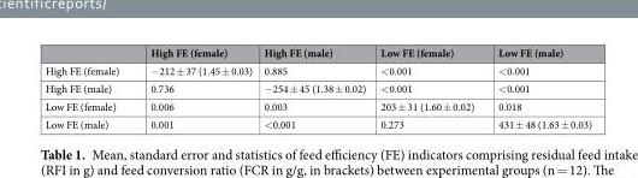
<table><thead><tr><td></td><td>High FE (female)</td><td>High FE (male)</td><td>Low FE (female)</td><td>Low FE (male)</td></tr></thead><tbody><tr><td>High FE (female)</td><td>−212 ± 37 (1.45 ± 0.03)</td><td>0.885</td><td>&lt;0.001</td><td>&lt;0.001</td></tr><tr><td>High FE (male)</td><td>0.736</td><td>−254 ± 45 (1.38 ± 0.02)</td><td>&lt;0.001</td><td>&lt;0.001</td></tr><tr><td>Low FE (female)</td><td>0.006</td><td>0.003</td><td>203 ± 31 (1.60 ± 0.02)</td><td>0.018</td></tr><tr><td>Low FE (male)</td><td>0.001</td><td>&lt;0.001</td><td>0.273</td><td>431 ± 48 (1.63 ± 0.03)</td></tr></tbody></table>